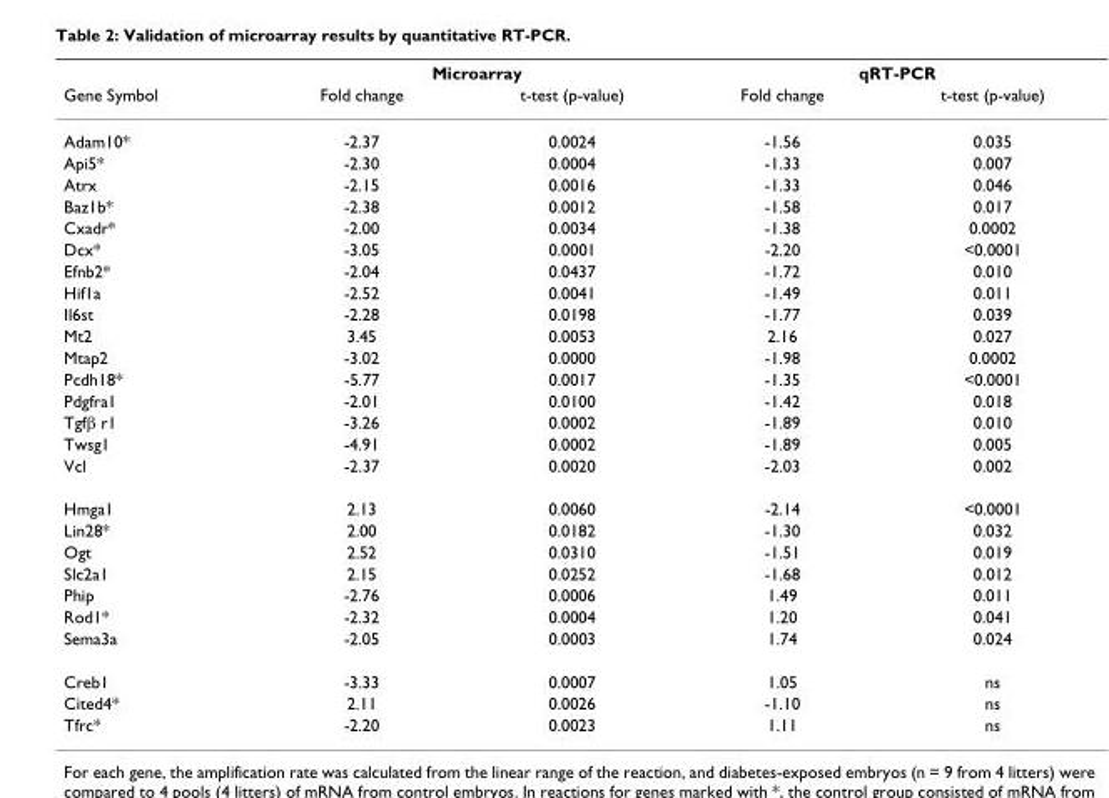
<table><thead><tr><td rowspan="2">Gene Symbol</td><td colspan="2">Microarray</td><td colspan="2">qRT-PCR</td></tr><tr><td>Fold change</td><td>t-test (p-value)</td><td>Fold change</td><td>t-test (p-value)</td></tr></thead><tbody><tr><td>Adam10*</td><td>-2.37</td><td>0.0024</td><td>-1.56</td><td>0.035</td></tr><tr><td>Api5*</td><td>-2.30</td><td>0.0004</td><td>-1.33</td><td>0.007</td></tr><tr><td>Atrx</td><td>-2.15</td><td>0.0016</td><td>-1.33</td><td>0.046</td></tr><tr><td>Baz1b*</td><td>-2.38</td><td>0.0012</td><td>-1.58</td><td>0.017</td></tr><tr><td>Cxadr*</td><td>-2.00</td><td>0.0034</td><td>-1.38</td><td>0.0002</td></tr><tr><td>Dcx*</td><td>-3.05</td><td>0.0001</td><td>-2.20</td><td>&lt;0.0001</td></tr><tr><td>Efnb2*</td><td>-2.04</td><td>0.0437</td><td>-1.72</td><td>0.010</td></tr><tr><td>Hif1a</td><td>-2.52</td><td>0.0041</td><td>-1.49</td><td>0.011</td></tr><tr><td>Il6st</td><td>-2.28</td><td>0.0198</td><td>-1.77</td><td>0.039</td></tr><tr><td>Mt2</td><td>3.45</td><td>0.0053</td><td>2.16</td><td>0.027</td></tr><tr><td>Mtap2</td><td>-3.02</td><td>0.0000</td><td>-1.98</td><td>0.0002</td></tr><tr><td>Pcdh18*</td><td>-5.77</td><td>0.0017</td><td>-1.35</td><td>&lt;0.0001</td></tr><tr><td>Pdgfra1</td><td>-2.01</td><td>0.0100</td><td>-1.42</td><td>0.018</td></tr><tr><td>Tgfβ r1</td><td>-3.26</td><td>0.0002</td><td>-1.89</td><td>0.010</td></tr><tr><td>Twsg1</td><td>-4.91</td><td>0.0002</td><td>-1.89</td><td>0.005</td></tr><tr><td>Vcl</td><td>-2.37</td><td>0.0020</td><td>-2.03</td><td>0.002</td></tr><tr><td>Hmga1</td><td>2.13</td><td>0.0060</td><td>-2.14</td><td>&lt;0.0001</td></tr><tr><td>Lin28*</td><td>2.00</td><td>0.0182</td><td>-1.30</td><td>0.032</td></tr><tr><td>Ogt</td><td>2.52</td><td>0.0310</td><td>-1.51</td><td>0.019</td></tr><tr><td>Slc2a1</td><td>2.15</td><td>0.0252</td><td>-1.68</td><td>0.012</td></tr><tr><td>Phip</td><td>-2.76</td><td>0.0006</td><td>1.49</td><td>0.011</td></tr><tr><td>Rod1*</td><td>-2.32</td><td>0.0004</td><td>1.20</td><td>0.041</td></tr><tr><td>Sema3a</td><td>-2.05</td><td>0.0003</td><td>1.74</td><td>0.024</td></tr><tr><td>Creb1</td><td>-3.33</td><td>0.0007</td><td>1.05</td><td>ns</td></tr><tr><td>Cited4*</td><td>2.11</td><td>0.0026</td><td>-1.10</td><td>ns</td></tr><tr><td>Tfrc*</td><td>-2.20</td><td>0.0023</td><td>1.11</td><td>ns</td></tr></tbody></table>